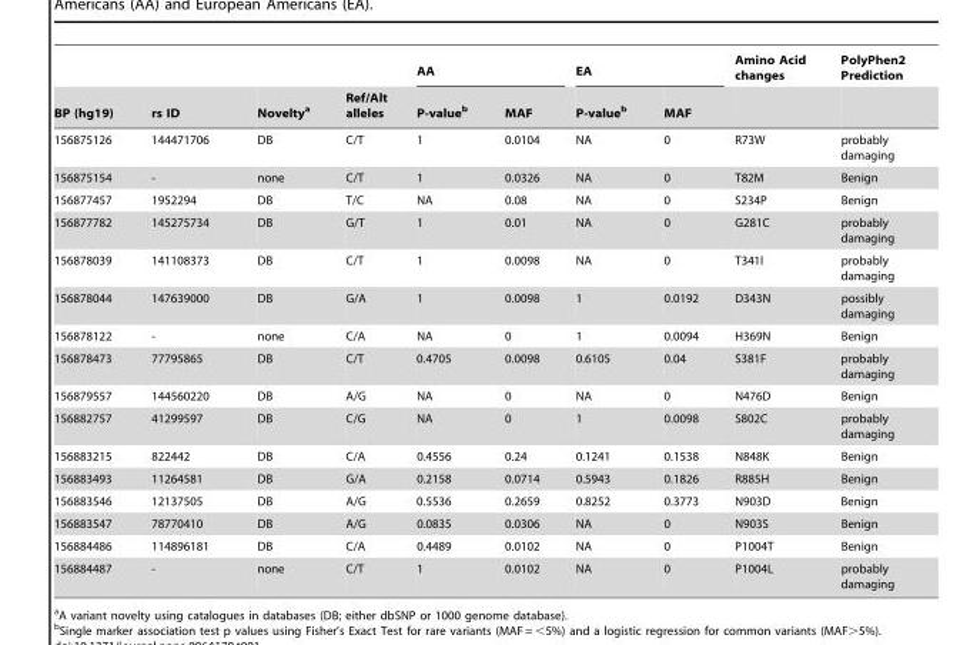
<table><thead><tr><td rowspan="2">BP (hg19)</td><td rowspan="2">rs ID</td><td rowspan="2">Novelty<sup>a</sup></td><td rowspan="2">Ref/Alt alleles</td><td colspan="2">AA</td><td colspan="2">EA</td><td rowspan="2">Amino Acid changes</td><td rowspan="2">PolyPhen2 Prediction</td></tr><tr><td>P-value<sup>b</sup></td><td>MAF</td><td>P-value<sup>b</sup></td><td>MAF</td></tr></thead><tbody><tr><td>156875126</td><td>144471706</td><td>DB</td><td>C/T</td><td>1</td><td>0.0104</td><td>NA</td><td>0</td><td>R73W</td><td>probably damaging</td></tr><tr><td>156875154</td><td>-</td><td>none</td><td>C/T</td><td>1</td><td>0.0326</td><td>NA</td><td>0</td><td>T82M</td><td>Benign</td></tr><tr><td>156877457</td><td>1952294</td><td>DB</td><td>T/C</td><td>NA</td><td>0.08</td><td>NA</td><td>0</td><td>S234P</td><td>Benign</td></tr><tr><td>156877782</td><td>145275734</td><td>DB</td><td>G/T</td><td>1</td><td>0.01</td><td>NA</td><td>0</td><td>G281C</td><td>probably damaging</td></tr><tr><td>156878039</td><td>141108373</td><td>DB</td><td>C/T</td><td>1</td><td>0.0098</td><td>NA</td><td>0</td><td>T341I</td><td>probably damaging</td></tr><tr><td>156878044</td><td>147639000</td><td>DB</td><td>G/A</td><td>1</td><td>0.0098</td><td>1</td><td>0.0192</td><td>D343N</td><td>possibly damaging</td></tr><tr><td>156878122</td><td>-</td><td>none</td><td>C/A</td><td>NA</td><td>0</td><td>1</td><td>0.0094</td><td>H369N</td><td>Benign</td></tr><tr><td>156878473</td><td>77795865</td><td>DB</td><td>C/T</td><td>0.4705</td><td>0.0098</td><td>0.6105</td><td>0.04</td><td>S381F</td><td>probably damaging</td></tr><tr><td>156879557</td><td>144560220</td><td>DB</td><td>A/G</td><td>NA</td><td>0</td><td>NA</td><td>0</td><td>N476D</td><td>Benign</td></tr><tr><td>156882757</td><td>41299597</td><td>DB</td><td>C/G</td><td>NA</td><td>0</td><td>1</td><td>0.0098</td><td>S802C</td><td>probably damaging</td></tr><tr><td>156883215</td><td>822442</td><td>DB</td><td>C/A</td><td>0.4556</td><td>0.24</td><td>0.1241</td><td>0.1538</td><td>N848K</td><td>Benign</td></tr><tr><td>156883493</td><td>11264581</td><td>DB</td><td>G/A</td><td>0.2158</td><td>0.0714</td><td>0.5943</td><td>0.1826</td><td>R885H</td><td>Benign</td></tr><tr><td>156883546</td><td>12137505</td><td>DB</td><td>A/G</td><td>0.5536</td><td>0.2659</td><td>0.8252</td><td>0.3773</td><td>N903D</td><td>Benign</td></tr><tr><td>156883547</td><td>78770410</td><td>DB</td><td>A/G</td><td>0.0835</td><td>0.0306</td><td>NA</td><td>0</td><td>N903S</td><td>Benign</td></tr><tr><td>156884486</td><td>114896181</td><td>DB</td><td>C/A</td><td>0.4489</td><td>0.0102</td><td>NA</td><td>0</td><td>P1004T</td><td>Benign</td></tr><tr><td>156884487</td><td>-</td><td>none</td><td>C/T</td><td>1</td><td>0.0102</td><td>NA</td><td>0</td><td>P1004L</td><td>probably damaging</td></tr></tbody></table>